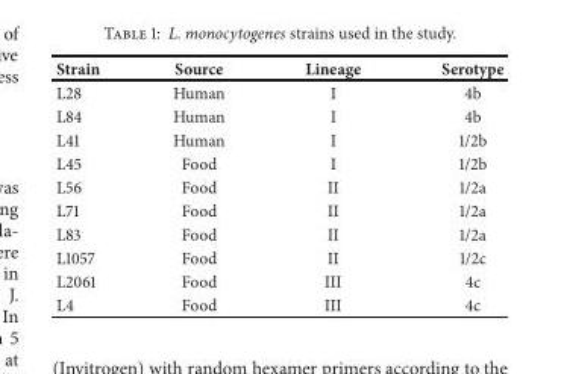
<table><thead><tr><td>Strain</td><td>Source</td><td>Lineage</td><td>Serotype</td></tr></thead><tbody><tr><td>L28</td><td>Human</td><td>I</td><td>4b</td></tr><tr><td>L84</td><td>Human</td><td>I</td><td>4b</td></tr><tr><td>L41</td><td>Human</td><td>I</td><td>1/2b</td></tr><tr><td>L45</td><td>Food</td><td>I</td><td>1/2b</td></tr><tr><td>L56</td><td>Food</td><td>II</td><td>1/2a</td></tr><tr><td>L71</td><td>Food</td><td>II</td><td>1/2a</td></tr><tr><td>L83</td><td>Food</td><td>II</td><td>1/2a</td></tr><tr><td>L1057</td><td>Food</td><td>II</td><td>1/2c</td></tr><tr><td>L2061</td><td>Food</td><td>III</td><td>4c</td></tr><tr><td>L4</td><td>Food</td><td>III</td><td>4c</td></tr></tbody></table>